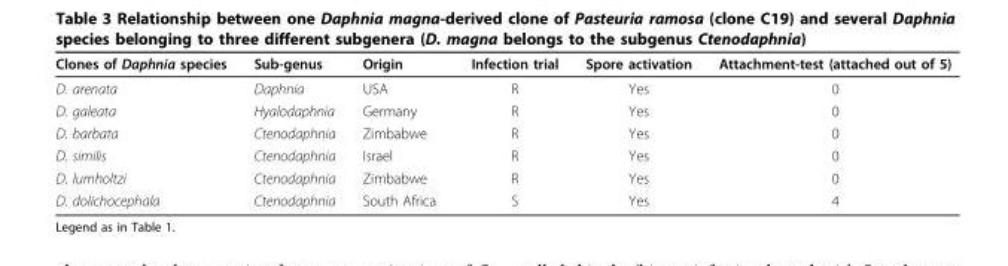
<table><thead><tr><td>Clones of Daphnia species</td><td>Sub-genus</td><td>Origin</td><td>Infection trial</td><td>Spore activation</td><td>Attachment-test (attached out of 5)</td></tr></thead><tbody><tr><td>D. arenata</td><td>Daphnia</td><td>USA</td><td>R</td><td>Yes</td><td>0</td></tr><tr><td>D. galeata</td><td>Hyalodaphnia</td><td>Germany</td><td>R</td><td>Yes</td><td>0</td></tr><tr><td>D. barbata</td><td>Ctenodaphnia</td><td>Zimbabwe</td><td>R</td><td>Yes</td><td>0</td></tr><tr><td>D. similis</td><td>Ctenodaphnia</td><td>Israel</td><td>R</td><td>Yes</td><td>0</td></tr><tr><td>D. lumholtzi</td><td>Ctenodaphnia</td><td>Zimbabwe</td><td>R</td><td>Yes</td><td>0</td></tr><tr><td>D. dolichocephala</td><td>Ctenodaphnia</td><td>South Africa</td><td>S</td><td>Yes</td><td>4</td></tr></tbody></table>